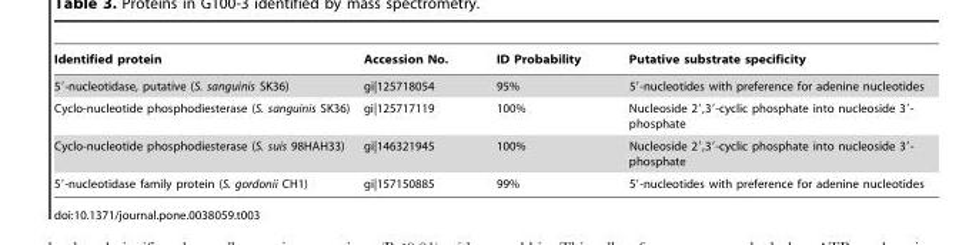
<table><thead><tr><td>Identified protein</td><td>Accession No.</td><td>ID Probability</td><td>Putative substrate specificity</td></tr></thead><tbody><tr><td>5′-nucleotidase, putative (S. sanguinis SK36)</td><td>gi|125718054</td><td>95%</td><td>5′-nucleotides with preference for adenine nucleotides</td></tr><tr><td>Cyclo-nucleotide phosphodiesterase (S. sanguinis SK36)</td><td>gi|125717119</td><td>100%</td><td>Nucleoside 2′,3′-cyclic phosphate into nucleoside 3′- phosphate</td></tr><tr><td>Cyclo-nucleotide phosphodiesterase (S. suis 98HAH33)</td><td>gi|146321945</td><td>100%</td><td>Nucleoside 2′,3′-cyclic phosphate into nucleoside 3′- phosphate</td></tr><tr><td>5′-nucleotidase family protein (S. gordonii CH1)</td><td>gi|157150885</td><td>99%</td><td>5′-nucleotides with preference for adenine nucleotides</td></tr></tbody></table>